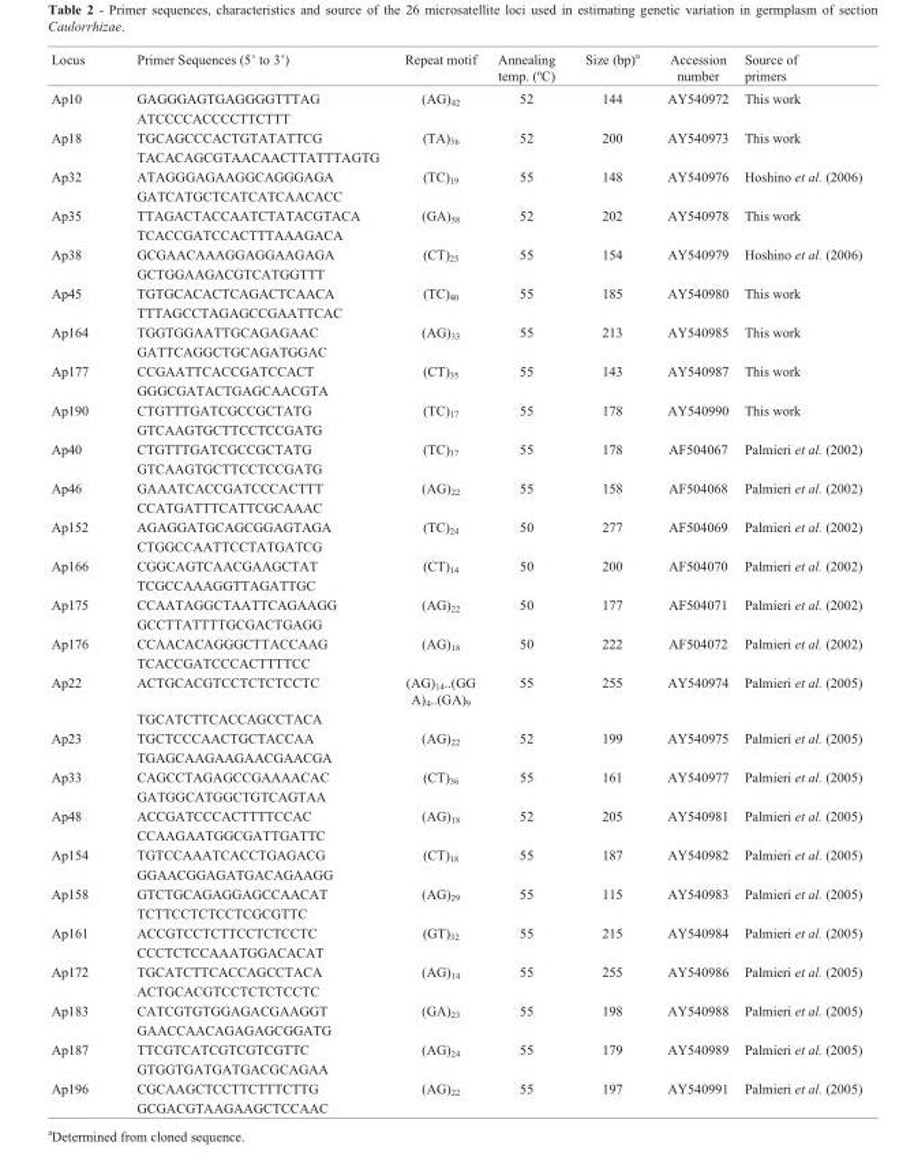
<table><thead><tr><td>Locus</td><td>Primer Sequences (5’ to 3’)</td><td>Repeat motif</td><td>Annealing temp. (ºC)</td><td>Size (bp)<sup>a</sup></td><td>Accession number</td><td>Source of primers</td></tr></thead><tbody><tr><td rowspan="2">Ap10</td><td>GAGGGAGTGAGGGGTTTAG</td><td>(AG)<sub>42</sub></td><td>52</td><td>144</td><td>AY540972</td><td>This work</td></tr><tr><td>ATCCCCACCCCTTCTTT</td><td></td><td></td><td></td><td></td><td></td></tr><tr><td rowspan="2">Ap18</td><td>TGCAGCCCACTGTATATTCG</td><td>(TA)<sub>36</sub></td><td>52</td><td>200</td><td>AY540973</td><td>This work</td></tr><tr><td>TACACAGCGTAACAACTTATTTAGTG</td><td></td><td></td><td></td><td></td><td></td></tr><tr><td rowspan="2">Ap32</td><td>ATAGGGAGAAGGCAGGGAGA</td><td>(TC)<sub>19</sub></td><td>55</td><td>148</td><td>AY540976</td><td>Hoshino et al. (2006)</td></tr><tr><td>GATCATGCTCATCATCAACACC</td><td></td><td></td><td></td><td></td><td></td></tr><tr><td rowspan="2">Ap35</td><td>TTAGACTACCAATCTATACGTACA</td><td>(GA)<sub>58</sub></td><td>52</td><td>202</td><td>AY540978</td><td>This work</td></tr><tr><td>TCACCGATCCACTTTAAAGACA</td><td></td><td></td><td></td><td></td><td></td></tr><tr><td rowspan="2">Ap38</td><td>GCGAACAAAGGAGGAAGAGA</td><td>(CT)<sub>25</sub></td><td>55</td><td>154</td><td>AY540979</td><td>Hoshino et al. (2006)</td></tr><tr><td>GCTGGAAGACGTCATGGTTT</td><td></td><td></td><td></td><td></td><td></td></tr><tr><td rowspan="2">Ap45</td><td>TGTGCACACTCAGACTCAACA</td><td>(TC)<sub>40</sub></td><td>55</td><td>185</td><td>AY540980</td><td>This work</td></tr><tr><td>TTTAGCCTAGAGCCGAATTCAC</td><td></td><td></td><td></td><td></td><td></td></tr><tr><td rowspan="2">Ap164</td><td>TGGTGGAATTGCAGAGAAC</td><td>(AG)<sub>33</sub></td><td>55</td><td>213</td><td>AY540985</td><td>This work</td></tr><tr><td>GATTCAGGCTGCAGATGGAC</td><td></td><td></td><td></td><td></td><td></td></tr><tr><td rowspan="2">Ap177</td><td>CCGAATTCACCGATCCACT</td><td>(CT)<sub>35</sub></td><td>55</td><td>143</td><td>AY540987</td><td>This work</td></tr><tr><td>GGGCGATACTGAGCAACGTA</td><td></td><td></td><td></td><td></td><td></td></tr><tr><td rowspan="2">Ap190</td><td>CTGTTTGATCGCCGCTATG</td><td>(TC)<sub>17</sub></td><td>55</td><td>178</td><td>AY540990</td><td>This work</td></tr><tr><td>GTCAAGTGCTTCCTCCGATG</td><td></td><td></td><td></td><td></td><td></td></tr><tr><td rowspan="2">Ap40</td><td>CTGTTTGATCGCCGCTATG</td><td>(TC)<sub>17</sub></td><td>55</td><td>178</td><td>AF504067</td><td>Palmieri et al. (2002)</td></tr><tr><td>GTCAAGTGCTTCCTCCGATG</td><td></td><td></td><td></td><td></td><td></td></tr><tr><td rowspan="2">Ap46</td><td>GAAATCACCGATCCCACTTT</td><td>(AG)<sub>22</sub></td><td>55</td><td>158</td><td>AF504068</td><td>Palmieri et al. (2002)</td></tr><tr><td>CCATGATTTCATTCGCAAAC</td><td></td><td></td><td></td><td></td><td></td></tr><tr><td rowspan="2">Ap152</td><td>AGAGGATGCAGCGGAGTAGA</td><td>(TC)<sub>24</sub></td><td>50</td><td>277</td><td>AF504069</td><td>Palmieri et al. (2002)</td></tr><tr><td>CTGGCCAATTCCTATGATCG</td><td></td><td></td><td></td><td></td><td></td></tr><tr><td rowspan="2">Ap166</td><td>CGGCAGTCAACGAAGCTAT</td><td>(CT)<sub>14</sub></td><td>50</td><td>200</td><td>AF504070</td><td>Palmieri et al. (2002)</td></tr><tr><td>TCGCCAAAGGTTAGATTGC</td><td></td><td></td><td></td><td></td><td></td></tr><tr><td rowspan="2">Ap175</td><td>CCAATAGGCTAATTCAGAAGG</td><td>(AG)<sub>22</sub></td><td>50</td><td>177</td><td>AF504071</td><td>Palmieri et al. (2002)</td></tr><tr><td>GCCTTATTTTGCGACTGAGG</td><td></td><td></td><td></td><td></td><td></td></tr><tr><td rowspan="2">Ap176</td><td>CCAACACAGGGCTTACCAAG</td><td>(AG)<sub>18</sub></td><td>50</td><td>222</td><td>AF504072</td><td>Palmieri et al. (2002)</td></tr><tr><td>TCACCGATCCCACTTTTCC</td><td></td><td></td><td></td><td></td><td></td></tr><tr><td rowspan="2">Ap22</td><td>ACTGCACGTCCTCTCTCCTC</td><td>(AG)<sub>14</sub>..(GG A)<sub>4</sub>..(GA)<sub>9</sub></td><td>55</td><td>255</td><td>AY540974</td><td>Palmieri et al. (2005)</td></tr><tr><td>TGCATCTTCACCAGCCTACA</td><td></td><td></td><td></td><td></td><td></td></tr><tr><td rowspan="2">Ap23</td><td>TGCTCCCAACTGCTACCAA</td><td>(AG)<sub>22</sub></td><td>52</td><td>199</td><td>AY540975</td><td>Palmieri et al. (2005)</td></tr><tr><td>TGAGCAAGAAGAACGAACGA</td><td></td><td></td><td></td><td></td><td></td></tr><tr><td rowspan="2">Ap33</td><td>CAGCCTAGAGCCGAAAACAC</td><td>(CT)<sub>36</sub></td><td>55</td><td>161</td><td>AY540977</td><td>Palmieri et al. (2005)</td></tr><tr><td>GATGGCATGGCTGTCAGTAA</td><td></td><td></td><td></td><td></td><td></td></tr><tr><td rowspan="2">Ap48</td><td>ACCGATCCCACTTTTCCAC</td><td>(AG)<sub>18</sub></td><td>52</td><td>205</td><td>AY540981</td><td>Palmieri et al. (2005)</td></tr><tr><td>CCAAGAATGGCGATTGATTC</td><td></td><td></td><td></td><td></td><td></td></tr><tr><td rowspan="2">Ap154</td><td>TGTCCAAATCACCTGAGACG</td><td>(CT)<sub>18</sub></td><td>55</td><td>187</td><td>AY540982</td><td>Palmieri et al. (2005)</td></tr><tr><td>GGAACGGAGATGACAGAAGG</td><td></td><td></td><td></td><td></td><td></td></tr><tr><td rowspan="2">Ap158</td><td>GTCTGCAGAGGAGCCAACAT</td><td>(AG)<sub>29</sub></td><td>55</td><td>115</td><td>AY540983</td><td>Palmieri et al. (2005)</td></tr><tr><td>TCTTCCTCTCCTCGCGTTC</td><td></td><td></td><td></td><td></td><td></td></tr><tr><td rowspan="2">Ap161</td><td>ACCGTCCTCTTCCTCTCCTC</td><td>(GT)<sub>32</sub></td><td>55</td><td>215</td><td>AY540984</td><td>Palmieri et al. (2005)</td></tr><tr><td>CCCTCTCCAAATGGACACAT</td><td></td><td></td><td></td><td></td><td></td></tr><tr><td rowspan="2">Ap172</td><td>TGCATCTTCACCAGCCTACA</td><td>(AG)<sub>14</sub></td><td>55</td><td>255</td><td>AY540986</td><td>Palmieri et al. (2005)</td></tr><tr><td>ACTGCACGTCCTCTCTCCTC</td><td></td><td></td><td></td><td></td><td></td></tr><tr><td rowspan="2">Ap183</td><td>CATCGTGTGGAGACGAAGGT</td><td>(GA)<sub>23</sub></td><td>55</td><td>198</td><td>AY540988</td><td>Palmieri et al. (2005)</td></tr><tr><td>GAACCAACAGAGAGCGGATG</td><td></td><td></td><td></td><td></td><td></td></tr><tr><td rowspan="2">Ap187</td><td>TTCGTCATCGTCGTCGTTC</td><td>(AG)<sub>24</sub></td><td>55</td><td>179</td><td>AY540989</td><td>Palmieri et al. (2005)</td></tr><tr><td>GTGGTGATGATGACGCAGAA</td><td></td><td></td><td></td><td></td><td></td></tr><tr><td rowspan="2">Ap196</td><td>CGCAAGCTCCTTCTTTCTTG</td><td>(AG)<sub>22</sub></td><td>55</td><td>197</td><td>AY540991</td><td>Palmieri et al. (2005)</td></tr><tr><td>GCGACGTAAGAAGCTCCAAC</td><td></td><td></td><td></td><td></td><td></td></tr></tbody></table>